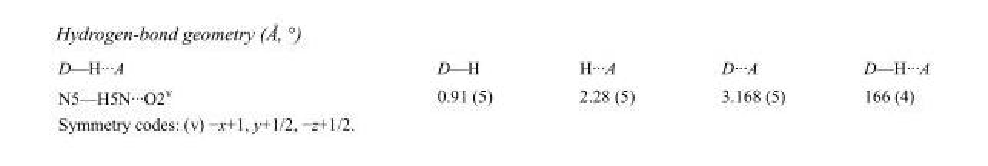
<table><tbody><tr><td>D—H···A</td><td>D—H</td><td>H···A</td><td>D···A</td><td>D—H···A</td></tr><tr><td>N5—H5N···O2<sup>v</sup></td><td>0.91 (5)</td><td>2.28 (5)</td><td>3.168 (5)</td><td>166 (4)</td></tr></tbody></table>